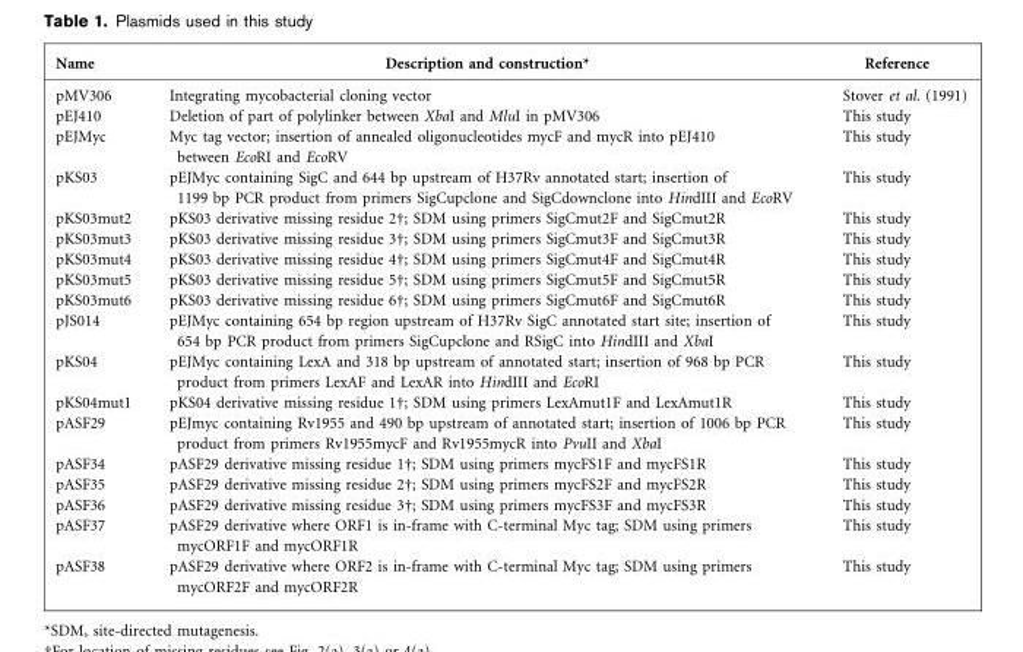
<table><thead><tr><td>Name</td><td>Description and construction*</td><td>Reference</td></tr></thead><tbody><tr><td>pMV306</td><td>Integrating mycobacterial cloning vector</td><td>Stover et al. (1991)</td></tr><tr><td>pEJ410</td><td>Deletion of part of polylinker between XbaI and MluI in pMV306</td><td>This study</td></tr><tr><td>pEJMyc</td><td>Myc tag vector; insertion of annealed oligonucleotides mycF and mycR into pEJ410 between EcoRI and EcoRV</td><td>This study</td></tr><tr><td>pKS03</td><td>pEJMyc containing SigC and 644 bp upstream of H37Rv annotated start; insertion of 1199 bp PCR product from primers SigCupclone and SigCdownclone into HindIII and EcoRV</td><td>This study</td></tr><tr><td>pKS03mut2</td><td>pKS03 derivative missing residue 2†; SDM using primers SigCmut2F and SigCmut2R</td><td>This study</td></tr><tr><td>pKS03mut3</td><td>pKS03 derivative missing residue 3†; SDM using primers SigCmut3F and SigCmut3R</td><td>This study</td></tr><tr><td>pKS03mut4</td><td>pKS03 derivative missing residue 4†; SDM using primers SigCmut4F and SigCmut4R</td><td>This study</td></tr><tr><td>pKS03mut5</td><td>pKS03 derivative missing residue 5†; SDM using primers SigCmut5F and SigCmut5R</td><td>This study</td></tr><tr><td>pKS03mut6</td><td>pKS03 derivative missing residue 6†; SDM using primers SigCmut6F and SigCmut6R</td><td>This study</td></tr><tr><td>pJS014</td><td>pEJMyc containing 654 bp region upstream of H37Rv SigC annotated start site; insertion of 654 bp PCR product from primers SigCupclone and RSigC into HindIII and XbaI</td><td>This study</td></tr><tr><td>pKS04</td><td>pEJMyc containing LexA and 318 bp upstream of annotated start; insertion of 968 bp PCR product from primers LexAF and LexAR into HindIII and EcoRI</td><td>This study</td></tr><tr><td>pKS04mut1</td><td>pKS04 derivative missing residue 1†; SDM using primers LexAmut1F and LexAmut1R</td><td>This study</td></tr><tr><td>pASF29</td><td>pEJmyc containing Rv1955 and 490 bp upstream of annotated start; insertion of 1006 bp PCR product from primers Rv1955mycF and Rv1955mycR into PvuII and XbaI</td><td>This study</td></tr><tr><td>pASF34</td><td>pASF29 derivative missing residue 1†; SDM using primers mycFS1F and mycFS1R</td><td>This study</td></tr><tr><td>pASF35</td><td>pASF29 derivative missing residue 2†; SDM using primers mycFS2F and mycFS2R</td><td>This study</td></tr><tr><td>pASF36</td><td>pASF29 derivative missing residue 3†; SDM using primers mycFS3F and mycFS3R</td><td>This study</td></tr><tr><td>pASF37</td><td>pASF29 derivative where ORF1 is in-frame with C-terminal Myc tag; SDM using primers mycORF1F and mycORF1R</td><td>This study</td></tr><tr><td>pASF38</td><td>pASF29 derivative where ORF2 is in-frame with C-terminal Myc tag; SDM using primers mycORF2F and mycORF2R</td><td>This study</td></tr></tbody></table>